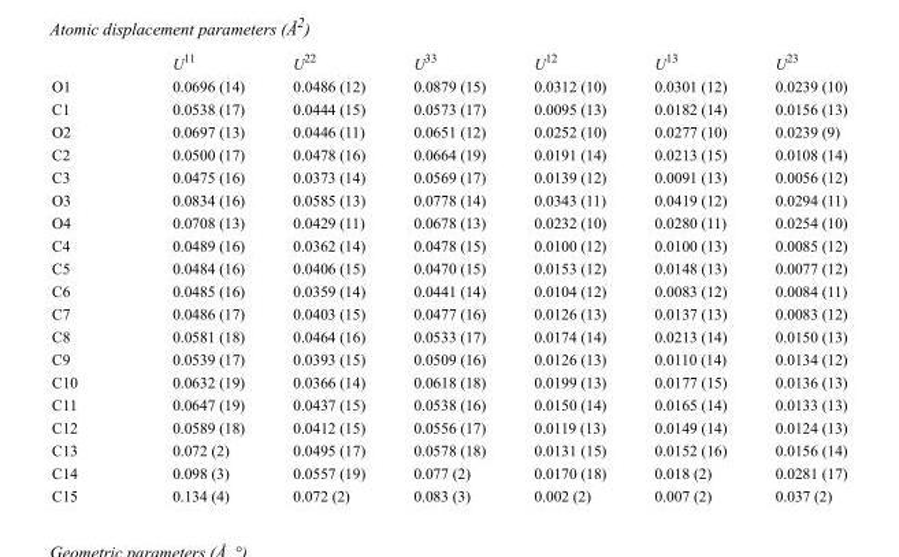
<table><thead><tr><td></td><td>U<sup>11</sup></td><td>U<sup>22</sup></td><td>U<sup>33</sup></td><td>U<sup>12</sup></td><td>U<sup>13</sup></td><td>U<sup>23</sup></td></tr></thead><tbody><tr><td>O1</td><td>0.0696 (14)</td><td>0.0486 (12)</td><td>0.0879 (15)</td><td>0.0312 (10)</td><td>0.0301 (12)</td><td>0.0239 (10)</td></tr><tr><td>C1</td><td>0.0538 (17)</td><td>0.0444 (15)</td><td>0.0573 (17)</td><td>0.0095 (13)</td><td>0.0182 (14)</td><td>0.0156 (13)</td></tr><tr><td>O2</td><td>0.0697 (13)</td><td>0.0446 (11)</td><td>0.0651 (12)</td><td>0.0252 (10)</td><td>0.0277 (10)</td><td>0.0239 (9)</td></tr><tr><td>C2</td><td>0.0500 (17)</td><td>0.0478 (16)</td><td>0.0664 (19)</td><td>0.0191 (14)</td><td>0.0213 (15)</td><td>0.0108 (14)</td></tr><tr><td>C3</td><td>0.0475 (16)</td><td>0.0373 (14)</td><td>0.0569 (17)</td><td>0.0139 (12)</td><td>0.0091 (13)</td><td>0.0056 (12)</td></tr><tr><td>O3</td><td>0.0834 (16)</td><td>0.0585 (13)</td><td>0.0778 (14)</td><td>0.0343 (11)</td><td>0.0419 (12)</td><td>0.0294 (11)</td></tr><tr><td>O4</td><td>0.0708 (13)</td><td>0.0429 (11)</td><td>0.0678 (13)</td><td>0.0232 (10)</td><td>0.0280 (11)</td><td>0.0254 (10)</td></tr><tr><td>C4</td><td>0.0489 (16)</td><td>0.0362 (14)</td><td>0.0478 (15)</td><td>0.0100 (12)</td><td>0.0100 (13)</td><td>0.0085 (12)</td></tr><tr><td>C5</td><td>0.0484 (16)</td><td>0.0406 (15)</td><td>0.0470 (15)</td><td>0.0153 (12)</td><td>0.0148 (13)</td><td>0.0077 (12)</td></tr><tr><td>C6</td><td>0.0485 (16)</td><td>0.0359 (14)</td><td>0.0441 (14)</td><td>0.0104 (12)</td><td>0.0083 (12)</td><td>0.0084 (11)</td></tr><tr><td>C7</td><td>0.0486 (17)</td><td>0.0403 (15)</td><td>0.0477 (16)</td><td>0.0126 (13)</td><td>0.0137 (13)</td><td>0.0083 (12)</td></tr><tr><td>C8</td><td>0.0581 (18)</td><td>0.0464 (16)</td><td>0.0533 (17)</td><td>0.0174 (14)</td><td>0.0213 (14)</td><td>0.0150 (13)</td></tr><tr><td>C9</td><td>0.0539 (17)</td><td>0.0393 (15)</td><td>0.0509 (16)</td><td>0.0126 (13)</td><td>0.0110 (14)</td><td>0.0134 (12)</td></tr><tr><td>C10</td><td>0.0632 (19)</td><td>0.0366 (14)</td><td>0.0618 (18)</td><td>0.0199 (13)</td><td>0.0177 (15)</td><td>0.0136 (13)</td></tr><tr><td>C11</td><td>0.0647 (19)</td><td>0.0437 (15)</td><td>0.0538 (16)</td><td>0.0150 (14)</td><td>0.0165 (14)</td><td>0.0133 (13)</td></tr><tr><td>C12</td><td>0.0589 (18)</td><td>0.0412 (15)</td><td>0.0556 (17)</td><td>0.0119 (13)</td><td>0.0149 (14)</td><td>0.0124 (13)</td></tr><tr><td>C13</td><td>0.072 (2)</td><td>0.0495 (17)</td><td>0.0578 (18)</td><td>0.0131 (15)</td><td>0.0152 (16)</td><td>0.0156 (14)</td></tr><tr><td>C14</td><td>0.098 (3)</td><td>0.0557 (19)</td><td>0.077 (2)</td><td>0.0170 (18)</td><td>0.018 (2)</td><td>0.0281 (17)</td></tr><tr><td>C15</td><td>0.134 (4)</td><td>0.072 (2)</td><td>0.083 (3)</td><td>0.002 (2)</td><td>0.007 (2)</td><td>0.037 (2)</td></tr></tbody></table>